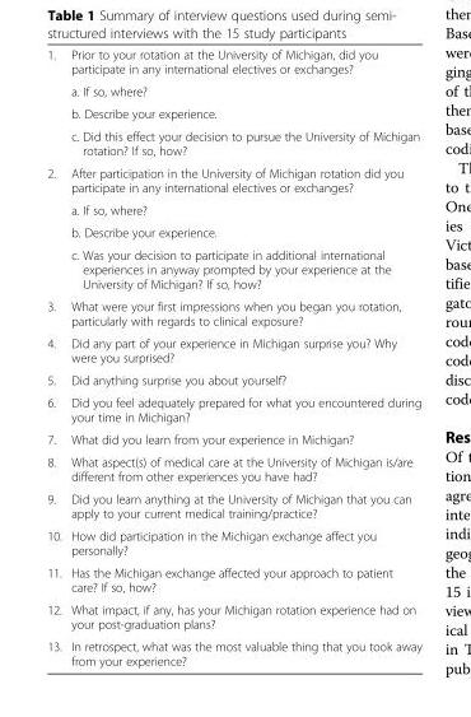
<table><tbody><tr><td rowspan="4">1.</td><td>Prior to your rotation at the University of Michigan, did you participate in any international electives or exchanges?</td></tr><tr><td>a. If so, where?</td></tr><tr><td>b. Describe your experience.</td></tr><tr><td>c. Did this effect your decision to pursue the University of Michigan rotation? If so, how?</td></tr><tr><td rowspan="4">2.</td><td>After participation in the University of Michigan rotation did you participate in any international electives or exchanges?</td></tr><tr><td>a. If so, where?</td></tr><tr><td>b. Describe your experience.</td></tr><tr><td>c. Was your decision to participate in additional international experiences in anyway prompted by your experience at the University of Michigan? If so, how?</td></tr><tr><td>3.</td><td>What were your first impressions when you began you rotation, particularly with regards to clinical exposure?</td></tr><tr><td>4.</td><td>Did any part of your experience in Michigan surprise you? Why were you surprised?</td></tr><tr><td>5.</td><td>Did anything surprise you about yourself?</td></tr><tr><td>6.</td><td>Did you feel adequately prepared for what you encountered during your time in Michigan?</td></tr><tr><td>7.</td><td>What did you learn from your experience in Michigan?</td></tr><tr><td>8.</td><td>What aspect(s) of medical care at the University of Michigan is/are different from other experiences you have had?</td></tr><tr><td>9.</td><td>Did you learn anything at the University of Michigan that you can apply to your current medical training/practice?</td></tr><tr><td>10.</td><td>How did participation in the Michigan exchange affect you personally?</td></tr><tr><td>11.</td><td>Has the Michigan exchange affected your approach to patient care? If so, how?</td></tr><tr><td>12.</td><td>What impact, if any, has your Michigan rotation experience had on your post-graduation plans?</td></tr><tr><td>13.</td><td>In retrospect, what was the most valuable thing that you took away from your experience?</td></tr></tbody></table>